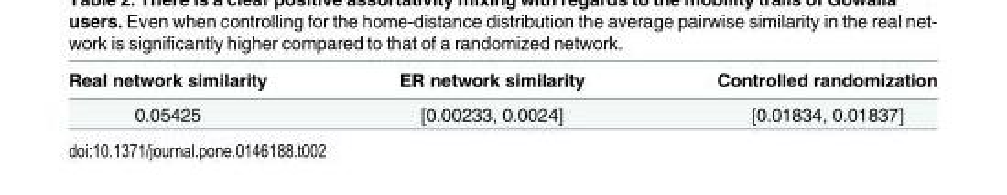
<table><thead><tr><td>Real network similarity</td><td>ER network similarity</td><td>Controlled randomization</td></tr></thead><tbody><tr><td>0.05425</td><td>[0.00233, 0.0024]</td><td>[0.01834, 0.01837]</td></tr></tbody></table>